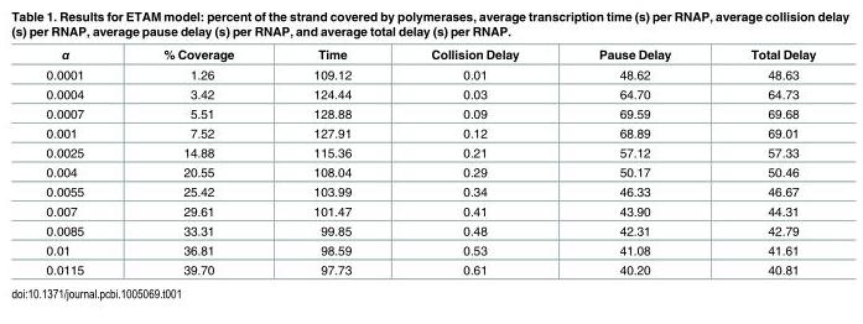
<table><thead><tr><td>α</td><td>% Coverage</td><td>Time</td><td>Collision Delay</td><td>Pause Delay</td><td>Total Delay</td></tr></thead><tbody><tr><td>0.0001</td><td>1.26</td><td>109.12</td><td>0.01</td><td>48.62</td><td>48.63</td></tr><tr><td>0.0004</td><td>3.42</td><td>124.44</td><td>0.03</td><td>64.70</td><td>64.73</td></tr><tr><td>0.0007</td><td>5.51</td><td>128.88</td><td>0.09</td><td>69.59</td><td>69.68</td></tr><tr><td>0.001</td><td>7.52</td><td>127.91</td><td>0.12</td><td>68.89</td><td>69.01</td></tr><tr><td>0.0025</td><td>14.88</td><td>115.36</td><td>0.21</td><td>57.12</td><td>57.33</td></tr><tr><td>0.004</td><td>20.55</td><td>108.04</td><td>0.29</td><td>50.17</td><td>50.46</td></tr><tr><td>0.0055</td><td>25.42</td><td>103.99</td><td>0.34</td><td>46.33</td><td>46.67</td></tr><tr><td>0.007</td><td>29.61</td><td>101.47</td><td>0.41</td><td>43.90</td><td>44.31</td></tr><tr><td>0.0085</td><td>33.31</td><td>99.85</td><td>0.48</td><td>42.31</td><td>42.79</td></tr><tr><td>0.01</td><td>36.81</td><td>98.59</td><td>0.53</td><td>41.08</td><td>41.61</td></tr><tr><td>0.0115</td><td>39.70</td><td>97.73</td><td>0.61</td><td>40.20</td><td>40.81</td></tr></tbody></table>